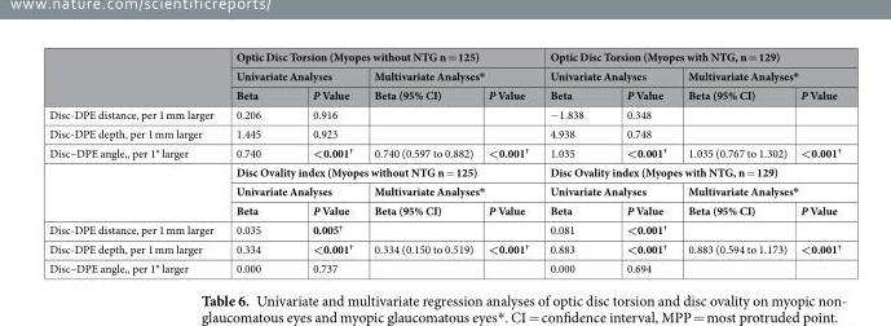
<table><thead><tr><td rowspan="3"></td><td colspan="4">Optic Disc Torsion (Myopes without NTG n = 125)</td><td colspan="4">Optic Disc Torsion (Myopes with NTG, n = 129)</td></tr><tr><td colspan="2">Univariate Analyses</td><td colspan="2">Multivariate Analyses*</td><td colspan="2">Univariate Analyses</td><td colspan="2">Multivariate Analyses*</td></tr><tr><td>Beta</td><td>P Value</td><td>Beta (95% CI)</td><td>P Value</td><td>Beta</td><td>P Value</td><td>Beta (95% CI)</td><td>P Value</td></tr></thead><tbody><tr><td>Disc-DPE distance, per 1 mm larger</td><td>0.206</td><td>0.916</td><td></td><td></td><td>−1.838</td><td>0.348</td><td></td><td></td></tr><tr><td>Disc-DPE depth, per 1 mm larger</td><td>1.445</td><td>0.923</td><td></td><td></td><td>4.938</td><td>0.748</td><td></td><td></td></tr><tr><td rowspan="4">Disc–DPE angle,, per 1° larger</td><td>0.740</td><td>&lt;0.001<sup>†</sup></td><td>0.740 (0.597 to 0.882)</td><td>&lt;0.001<sup>†</sup></td><td>1.035</td><td>&lt;0.001<sup>†</sup></td><td>1.035 (0.767 to 1.302)</td><td>&lt;0.001<sup>†</sup></td></tr><tr><td colspan="4">Disc Ovality index (Myopes without NTG n = 125)</td><td colspan="4">Disc Ovality index (Myopes with NTG, n = 129)</td></tr><tr><td colspan="2">Univariate Analyses</td><td colspan="2">Multivariate Analyses*</td><td colspan="2">Univariate Analyses</td><td colspan="2">Multivariate Analyses*</td></tr><tr><td>Beta</td><td>P Value</td><td>Beta (95% CI)</td><td>P Value</td><td>Beta</td><td>P Value</td><td>Beta (95% CI)</td><td>P Value</td></tr><tr><td>Disc-DPE distance, per 1 mm larger</td><td>0.035</td><td>0.005<sup>†</sup></td><td></td><td></td><td>0.081</td><td>&lt;0.001<sup>†</sup></td><td></td><td></td></tr><tr><td>Disc-DPE depth, per 1 mm larger</td><td>0.334</td><td>&lt;0.001<sup>†</sup></td><td>0.334 (0.150 to 0.519)</td><td>&lt;0.001<sup>†</sup></td><td>0.883</td><td>&lt;0.001<sup>†</sup></td><td>0.883 (0.594 to 1.173)</td><td>&lt;0.001<sup>†</sup></td></tr><tr><td>Disc–DPE angle,, per 1° larger</td><td>0.000</td><td>0.737</td><td></td><td></td><td>0.000</td><td>0.694</td><td></td><td></td></tr></tbody></table>